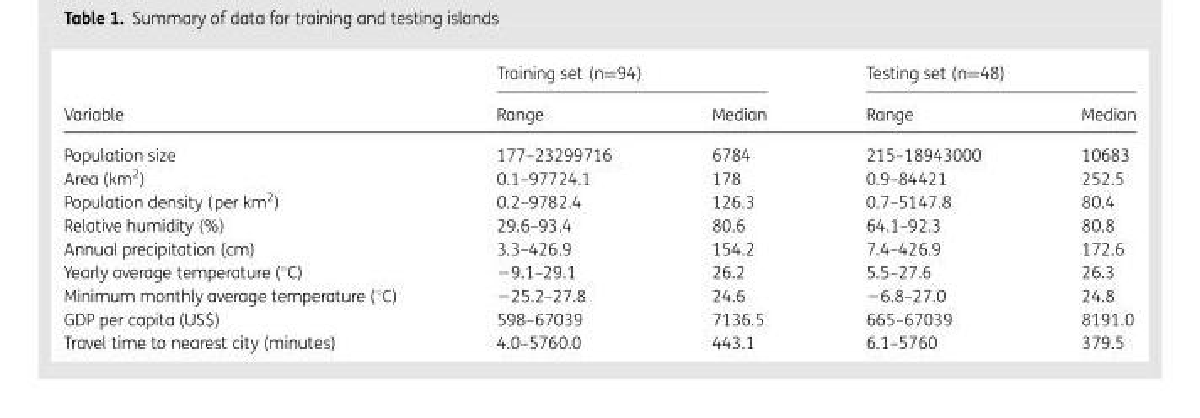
<table><thead><tr><td rowspan="2">Variable</td><td colspan="2">Training set (n=94)</td><td colspan="2">Testing set (n=48)</td></tr><tr><td>Range</td><td>Median</td><td>Range</td><td>Median</td></tr></thead><tbody><tr><td>Population size</td><td>177–23299716</td><td>6784</td><td>215–18943000</td><td>10683</td></tr><tr><td>Area (km<sup>2</sup>)</td><td>0.1–97724.1</td><td>178</td><td>0.9–84421</td><td>252.5</td></tr><tr><td>Population density (per km<sup>2</sup>)</td><td>0.2–9782.4</td><td>126.3</td><td>0.7–5147.8</td><td>80.4</td></tr><tr><td>Relative humidity (%)</td><td>29.6–93.4</td><td>80.6</td><td>64.1–92.3</td><td>80.8</td></tr><tr><td>Annual precipitation (cm)</td><td>3.3–426.9</td><td>154.2</td><td>7.4–426.9</td><td>172.6</td></tr><tr><td>Yearly average temperature (°C)</td><td>−9.1–29.1</td><td>26.2</td><td>5.5–27.6</td><td>26.3</td></tr><tr><td>Minimum monthly average temperature (°C)</td><td>−25.2–27.8</td><td>24.6</td><td>−6.8–27.0</td><td>24.8</td></tr><tr><td>GDP per capita (US$)</td><td>598–67039</td><td>7136.5</td><td>665–67039</td><td>8191.0</td></tr><tr><td>Travel time to nearest city (minutes)</td><td>4.0–5760.0</td><td>443.1</td><td>6.1–5760</td><td>379.5</td></tr></tbody></table>